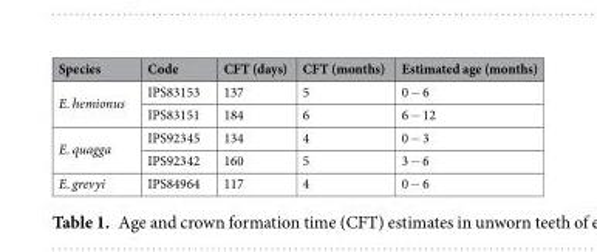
<table><thead><tr><td>Species</td><td>Code</td><td>CFT (days)</td><td>CFT (months)</td><td>Estimated age (months)</td></tr></thead><tbody><tr><td rowspan="2">E. hemionus</td><td>IPS83153</td><td>137</td><td>5</td><td>0 − 6</td></tr><tr><td>IPS83151</td><td>184</td><td>6</td><td>6 − 12</td></tr><tr><td rowspan="2">E. quagga</td><td>IPS92345</td><td>134</td><td>4</td><td>0 − 3</td></tr><tr><td>IPS92342</td><td>160</td><td>5</td><td>3 − 6</td></tr><tr><td>E. grevyi</td><td>IPS84964</td><td>117</td><td>4</td><td>0 − 6</td></tr></tbody></table>